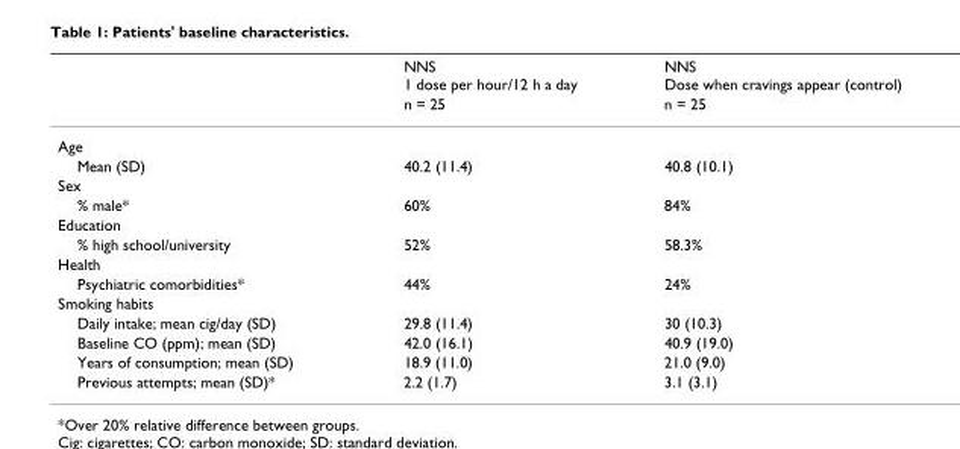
<table><thead><tr><td rowspan="2"></td><td rowspan="2">NNS 1 dose per hour/12 h a day n = 25</td><td rowspan="2">NNS Dose when cravings appear (control) n = 25</td></tr><tr></tr></thead><tbody><tr><td colspan="3">Age</td></tr><tr><td>Mean (SD)</td><td>40.2 (11.4)</td><td>40.8 (10.1)</td></tr><tr><td colspan="3">Sex</td></tr><tr><td>% male*</td><td>60%</td><td>84%</td></tr><tr><td colspan="3">Education</td></tr><tr><td>% high school/university</td><td>52%</td><td>58.3%</td></tr><tr><td colspan="3">Health</td></tr><tr><td>Psychiatric comorbidities*</td><td>44%</td><td>24%</td></tr><tr><td colspan="3">Smoking habits</td></tr><tr><td>Daily intake; mean cig/day (SD)</td><td>29.8 (11.4)</td><td>30 (10.3)</td></tr><tr><td>Baseline CO (ppm); mean (SD)</td><td>42.0 (16.1)</td><td>40.9 (19.0)</td></tr><tr><td>Years of consumption; mean (SD)</td><td>18.9 (11.0)</td><td>21.0 (9.0)</td></tr><tr><td>Previous attempts; mean (SD)*</td><td>2.2 (1.7)</td><td>3.1 (3.1)</td></tr></tbody></table>